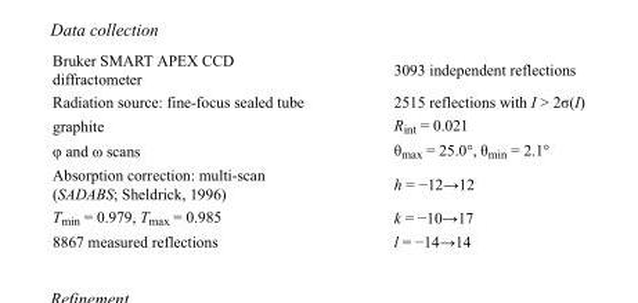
<table><tbody><tr><td>Bruker SMART APEX CCD diffractometer</td><td>3093 independent reflections</td></tr><tr><td>Radiation source: fine-focus sealed tube</td><td>2515 reflections with I &gt; 2σ(I)</td></tr><tr><td>graphite</td><td>R<sub>int</sub> = 0.021</td></tr><tr><td>φ and ω scans</td><td>θ<sub>max</sub> = 25.0°, θ<sub>min</sub> = 2.1°</td></tr><tr><td>Absorption correction: multi-scan (SADABS; Sheldrick, 1996)</td><td>h = −12→12</td></tr><tr><td>T<sub>min</sub> = 0.979, T<sub>max</sub> = 0.985</td><td>k = −10→17</td></tr><tr><td>8867 measured reflections</td><td>l = −14→14</td></tr></tbody></table>